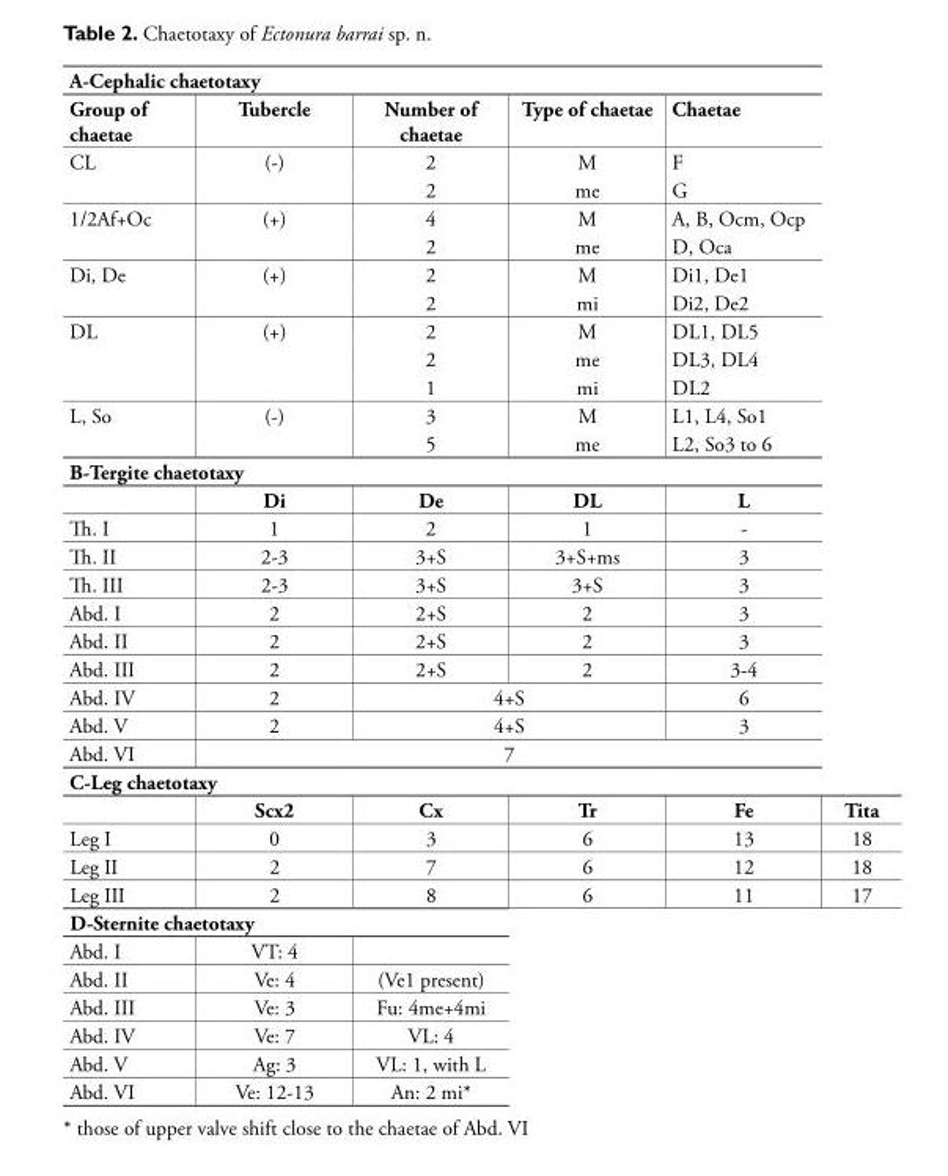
<table><tbody><tr><td colspan="5">A-Cephalic chaetotaxy</td><td rowspan="24"></td></tr><tr><td>Group of chaetae</td><td>Tubercle</td><td>Number of chaetae</td><td>Type of chaetae</td><td>Chaetae</td></tr><tr><td rowspan="2">CL</td><td>(-)</td><td>2</td><td>M</td><td>F</td></tr><tr><td></td><td>2</td><td>me</td><td>G</td></tr><tr><td rowspan="2">1/2Af+Oc</td><td>(+)</td><td>4</td><td>M</td><td>A, B, Ocm, Ocp</td></tr><tr><td></td><td>2</td><td>me</td><td>D, Oca</td></tr><tr><td rowspan="2">Di, De</td><td>(+)</td><td>2</td><td>M</td><td>Di1, De1</td></tr><tr><td></td><td>2</td><td>mi</td><td>Di2, De2</td></tr><tr><td rowspan="3">DL</td><td>(+)</td><td>2</td><td>M</td><td>DL1, DL5</td></tr><tr><td></td><td>2</td><td>me</td><td>DL3, DL4</td></tr><tr><td></td><td>1</td><td>mi</td><td>DL2</td></tr><tr><td rowspan="2">L, So</td><td>(-)</td><td>3</td><td>M</td><td>L1, L4, So1</td></tr><tr><td></td><td>5</td><td>me</td><td>L2, So3 to 6</td></tr><tr><td colspan="5">B-Tergite chaetotaxy</td></tr><tr><td></td><td>Di</td><td>De</td><td>DL</td><td>L</td></tr><tr><td>Th. I</td><td>1</td><td>2</td><td>1</td><td>-</td></tr><tr><td>Th. II</td><td>2-3</td><td>3+S</td><td>3+S+ms</td><td>3</td></tr><tr><td>Th. III</td><td>2-3</td><td>3+S</td><td>3+S</td><td>3</td></tr><tr><td>Abd. I</td><td>2</td><td>2+S</td><td>2</td><td>3</td></tr><tr><td>Abd. II</td><td>2</td><td>2+S</td><td>2</td><td>3</td></tr><tr><td>Abd. III</td><td>2</td><td>2+S</td><td>2</td><td>3-4</td></tr><tr><td>Abd. IV</td><td>2</td><td colspan="2">4+S</td><td>6</td></tr><tr><td>Abd. V</td><td>2</td><td colspan="2">4+S</td><td>3</td></tr><tr><td>Abd. VI</td><td colspan="4">7</td></tr><tr><td colspan="6">C-Leg chaetotaxy</td></tr><tr><td></td><td>Scx2</td><td>Cx</td><td>Tr</td><td>Fe</td><td>Tita</td></tr><tr><td>Leg I</td><td>0</td><td>3</td><td>6</td><td>13</td><td>18</td></tr><tr><td>Leg II</td><td>2</td><td>7</td><td>6</td><td>12</td><td>18</td></tr><tr><td>Leg III</td><td>2</td><td>8</td><td>6</td><td>11</td><td>17</td></tr><tr><td colspan="3">D-Sternite chaetotaxy</td><td rowspan="7" colspan="3"></td></tr><tr><td>Abd. I</td><td>VT: 4</td><td></td></tr><tr><td>Abd. II</td><td>Ve: 4</td><td>(Ve1 present)</td></tr><tr><td>Abd. III</td><td>Ve: 3</td><td>Fu: 4me+4mi</td></tr><tr><td>Abd. IV</td><td>Ve: 7</td><td>VL: 4</td></tr><tr><td>Abd. V</td><td>Ag: 3</td><td>VL: 1, with L</td></tr><tr><td>Abd. VI</td><td>Ve: 12-13</td><td>An: 2 mi*</td></tr></tbody></table>